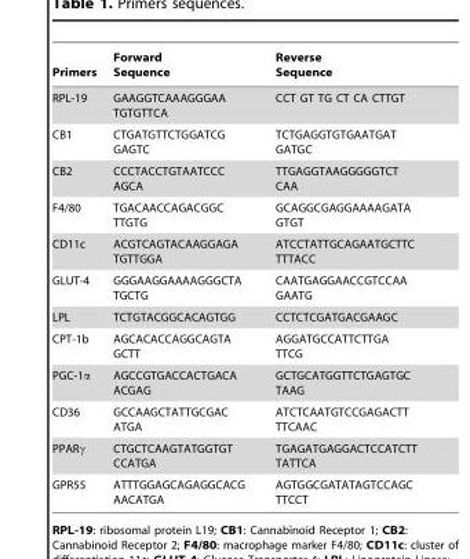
<table><thead><tr><td>Primers</td><td>Forward Sequence</td><td>Reverse Sequence</td></tr></thead><tbody><tr><td>RPL-19</td><td>GAAGGTCAAAGGGAA TGTGTTCA</td><td>CCT GT TG CT CA CTTGT</td></tr><tr><td>CB1</td><td>CTGATGTTCTGGATCG GAGTC</td><td>TCTGAGGTGTGAATGAT GATGC</td></tr><tr><td>CB2</td><td>CCCTACCTGTAATCCC AGCA</td><td>TTGAGGTAAGGGGGTCT CAA</td></tr><tr><td>F4/80</td><td>TGACAACCAGACGGC TTGTG</td><td>GCAGGCGAGGAAAAGATA GTGT</td></tr><tr><td>CD11c</td><td>ACGTCAGTACAAGGAGA TGTTGGA</td><td>ATCCTATTGCAGAATGCTTC TTTACC</td></tr><tr><td>GLUT-4</td><td>GGGAAGGAAAAGGGCTA TGCTG</td><td>CAATGAGGAACCGTCCAA GAATG</td></tr><tr><td>LPL</td><td>TCTGTACGGCACAGTGG</td><td>CCTCTCGATGACGAAGC</td></tr><tr><td>CPT-1b</td><td>AGCACACCAGGCAGTA GCTT</td><td>AGGATGCCATTCTTGA TTCG</td></tr><tr><td>PGC-1α</td><td>AGCCGTGACCACTGACA ACGAG</td><td>GCTGCATGGTTCTGAGTGC TAAG</td></tr><tr><td>CD36</td><td>GCCAAGCTATTGCGAC ATGA</td><td>ATCTCAATGTCCGAGACTT TTCAAC</td></tr><tr><td>PPARγ</td><td>CTGCTCAAGTATGGTGT CCATGA</td><td>TGAGATGAGGACTCCATCTT TATTCA</td></tr><tr><td>GPR55</td><td>ATTTGGAGCAGAGGCACG AACATGA</td><td>AGTGGCGATATAGTCCAGC TTCCT</td></tr></tbody></table>